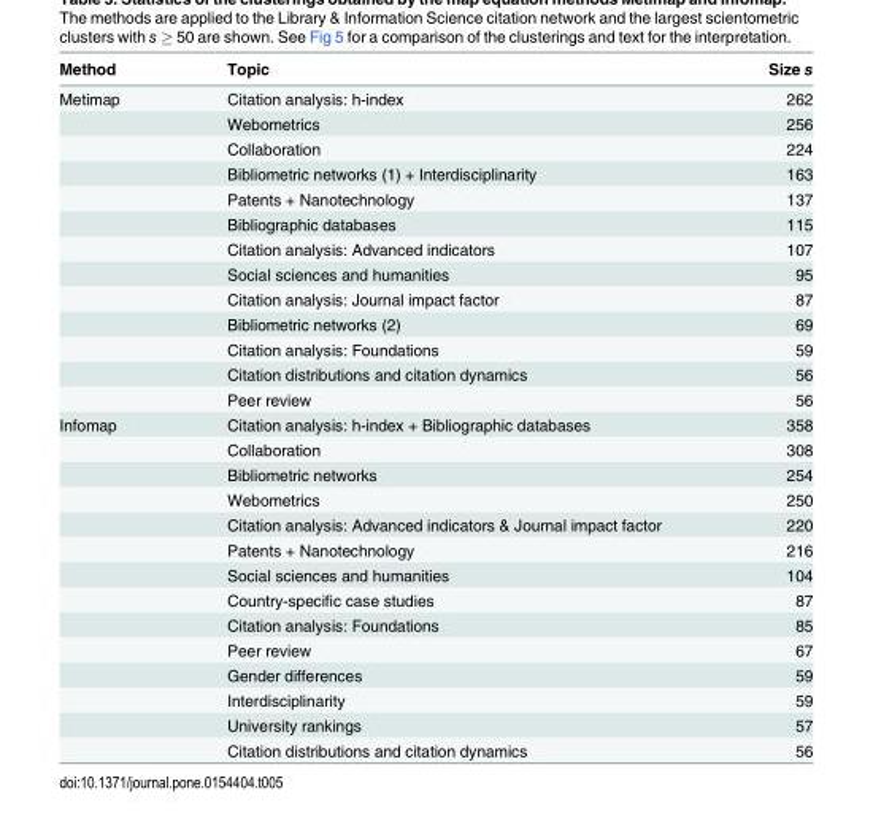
<table><thead><tr><td>Method</td><td>Topic</td><td>Size s</td></tr></thead><tbody><tr><td rowspan="13">Metimap</td><td>Citation analysis: h-index</td><td>262</td></tr><tr><td>Webometrics</td><td>256</td></tr><tr><td>Collaboration</td><td>224</td></tr><tr><td>Bibliometric networks (1) + Interdisciplinarity</td><td>163</td></tr><tr><td>Patents + Nanotechnology</td><td>137</td></tr><tr><td>Bibliographic databases</td><td>115</td></tr><tr><td>Citation analysis: Advanced indicators</td><td>107</td></tr><tr><td>Social sciences and humanities</td><td>95</td></tr><tr><td>Citation analysis: Journal impact factor</td><td>87</td></tr><tr><td>Bibliometric networks (2)</td><td>69</td></tr><tr><td>Citation analysis: Foundations</td><td>59</td></tr><tr><td>Citation distributions and citation dynamics</td><td>56</td></tr><tr><td>Peer review</td><td>56</td></tr><tr><td rowspan="14">Infomap</td><td>Citation analysis: h-index + Bibliographic databases</td><td>358</td></tr><tr><td>Collaboration</td><td>308</td></tr><tr><td>Bibliometric networks</td><td>254</td></tr><tr><td>Webometrics</td><td>250</td></tr><tr><td>Citation analysis: Advanced indicators &amp; Journal impact factor</td><td>220</td></tr><tr><td>Patents + Nanotechnology</td><td>216</td></tr><tr><td>Social sciences and humanities</td><td>104</td></tr><tr><td>Country-specific case studies</td><td>87</td></tr><tr><td>Citation analysis: Foundations</td><td>85</td></tr><tr><td>Peer review</td><td>67</td></tr><tr><td>Gender differences</td><td>59</td></tr><tr><td>Interdisciplinarity</td><td>59</td></tr><tr><td>University rankings</td><td>57</td></tr><tr><td>Citation distributions and citation dynamics</td><td>56</td></tr></tbody></table>